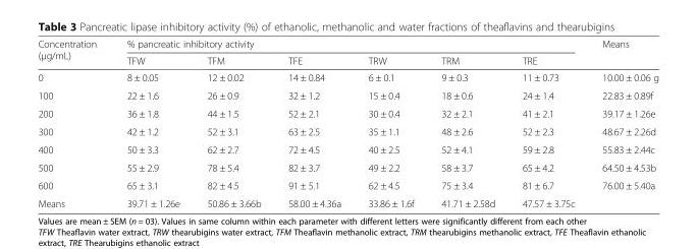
<table><thead><tr><td rowspan="2">Concentration (μg/mL)</td><td colspan="6">% pancreatic inhibitory activity</td><td rowspan="2">Means</td></tr><tr><td>TFW</td><td>TFM</td><td>TFE</td><td>TRW</td><td>TRM</td><td>TRE</td></tr></thead><tbody><tr><td>0</td><td>8 ± 0.05</td><td>12 ± 0.02</td><td>14 ± 0.84</td><td>6 ± 0.1</td><td>9 ± 0.3</td><td>11 ± 0.73</td><td>10.00 ± 0.06 g</td></tr><tr><td>100</td><td>22 ± 1.6</td><td>26 ± 0.9</td><td>32 ± 1.2</td><td>15 ± 0.4</td><td>18 ± 0.6</td><td>24 ± 1.4</td><td>22.83 ± 0.89f</td></tr><tr><td>200</td><td>36 ± 1.8</td><td>44 ± 1.5</td><td>52 ± 2.1</td><td>30 ± 0.4</td><td>32 ± 2.1</td><td>41 ± 2.1</td><td>39.17 ± 1.26e</td></tr><tr><td>300</td><td>42 ± 1.2</td><td>52 ± 3.1</td><td>63 ± 2.5</td><td>35 ± 1.1</td><td>48 ± 2.6</td><td>52 ± 2.3</td><td>48.67 ± 2.26d</td></tr><tr><td>400</td><td>50 ± 3.3</td><td>62 ± 2.7</td><td>72 ± 4.5</td><td>40 ± 2.5</td><td>52 ± 4.1</td><td>59 ± 2.8</td><td>55.83 ± 2.44c</td></tr><tr><td>500</td><td>55 ± 2.9</td><td>78 ± 5.4</td><td>82 ± 3.7</td><td>49 ± 2.2</td><td>58 ± 3.7</td><td>65 ± 4.2</td><td>64.50 ± 4.53b</td></tr><tr><td>600</td><td>65 ± 3.1</td><td>82 ± 4.5</td><td>91 ± 5.1</td><td>62 ± 4.5</td><td>75 ± 3.4</td><td>81 ± 6.7</td><td>76.00 ± 5.40a</td></tr><tr><td>Means</td><td>39.71 ± 1.26e</td><td>50.86 ± 3.66b</td><td>58.00 ± 4.36a</td><td>33.86 ± 1.6f</td><td>41.71 ± 2.58d</td><td>47.57 ± 3.75c</td><td></td></tr></tbody></table>